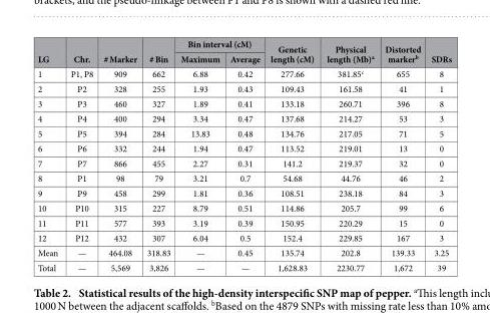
<table><thead><tr><td rowspan="2">LG</td><td rowspan="2">Chr.</td><td rowspan="2"># Marker</td><td rowspan="2"># Bin</td><td colspan="2">Bin interval (cM)</td><td rowspan="2">Genetic length (cM)</td><td rowspan="2">Physical length (Mb)<sup>a</sup></td><td rowspan="2">Distorted marker<sup>b</sup></td><td rowspan="2">SDRs</td></tr><tr><td>Maximum</td><td>Average</td></tr></thead><tbody><tr><td>1</td><td>P1, P8</td><td>909</td><td>662</td><td>6.88</td><td>0.42</td><td>277.66</td><td>381.85<sup>c</sup></td><td>655</td><td>8</td></tr><tr><td>2</td><td>P2</td><td>328</td><td>255</td><td>1.93</td><td>0.43</td><td>109.43</td><td>161.58</td><td>41</td><td>1</td></tr><tr><td>3</td><td>P3</td><td>460</td><td>327</td><td>1.89</td><td>0.41</td><td>133.18</td><td>260.71</td><td>396</td><td>8</td></tr><tr><td>4</td><td>P4</td><td>400</td><td>294</td><td>3.34</td><td>0.47</td><td>137.68</td><td>214.27</td><td>53</td><td>3</td></tr><tr><td>5</td><td>P5</td><td>394</td><td>284</td><td>13.83</td><td>0.48</td><td>134.76</td><td>217.05</td><td>71</td><td>5</td></tr><tr><td>6</td><td>P6</td><td>332</td><td>244</td><td>1.94</td><td>0.47</td><td>113.52</td><td>219.01</td><td>13</td><td>0</td></tr><tr><td>7</td><td>P7</td><td>866</td><td>455</td><td>2.27</td><td>0.31</td><td>141.2</td><td>219.37</td><td>32</td><td>0</td></tr><tr><td>8</td><td>P1</td><td>98</td><td>79</td><td>3.21</td><td>0.7</td><td>54.68</td><td>44.76</td><td>46</td><td>2</td></tr><tr><td>9</td><td>P9</td><td>458</td><td>299</td><td>1.81</td><td>0.36</td><td>108.51</td><td>238.18</td><td>84</td><td>3</td></tr><tr><td>10</td><td>P10</td><td>315</td><td>227</td><td>8.79</td><td>0.51</td><td>114.86</td><td>205.7</td><td>99</td><td>6</td></tr><tr><td>11</td><td>P11</td><td>577</td><td>393</td><td>3.19</td><td>0.39</td><td>150.95</td><td>220.29</td><td>15</td><td>0</td></tr><tr><td>12</td><td>P12</td><td>432</td><td>307</td><td>6.04</td><td>0.5</td><td>152.4</td><td>229.85</td><td>167</td><td>3</td></tr><tr><td>Mean</td><td>—</td><td>464.08</td><td>318.83</td><td>—</td><td>0.45</td><td>135.74</td><td>202.8</td><td>139.33</td><td>3.25</td></tr><tr><td>Total</td><td>—</td><td>5,569</td><td>3,826</td><td>—</td><td>—</td><td>1,628.83</td><td>2230.77</td><td>1,672</td><td>39</td></tr></tbody></table>